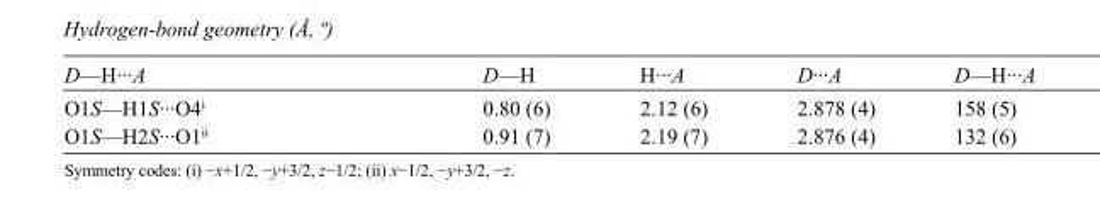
<table><tbody><tr><td>D—H···A</td><td>D—H</td><td>H···A</td><td>D···A</td><td>D—H···A</td></tr><tr><td>O1S—H1S···O4<sup>i</sup></td><td>0.80 (6)</td><td>2.12 (6)</td><td>2.878 (4)</td><td>158 (5)</td></tr><tr><td>O1S—H2S···O1<sup>ii</sup></td><td>0.91 (7)</td><td>2.19 (7)</td><td>2.876 (4)</td><td>132 (6)</td></tr></tbody></table>